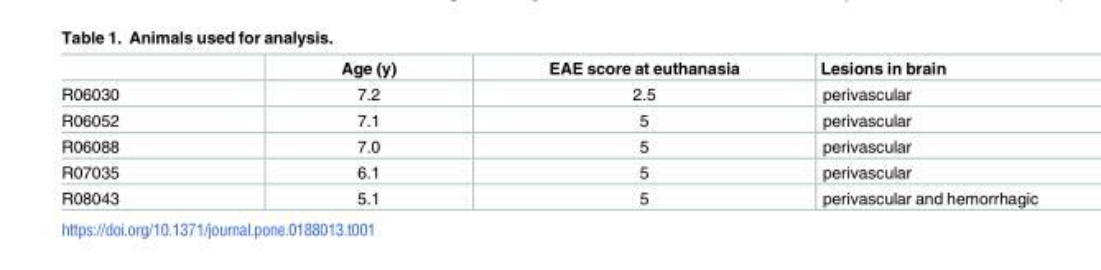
<table><thead><tr><td></td><td>Age (y)</td><td>EAE score at euthanasia</td><td>Lesions in brain</td></tr></thead><tbody><tr><td>R06030</td><td>7.2</td><td>2.5</td><td>perivascular</td></tr><tr><td>R06052</td><td>7.1</td><td>5</td><td>perivascular</td></tr><tr><td>R06088</td><td>7.0</td><td>5</td><td>perivascular</td></tr><tr><td>R07035</td><td>6.1</td><td>5</td><td>perivascular</td></tr><tr><td>R08043</td><td>5.1</td><td>5</td><td>perivascular and hemorrhagic</td></tr></tbody></table>